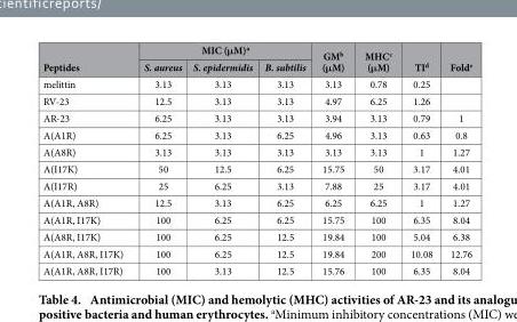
<table><thead><tr><td rowspan="2">Peptides</td><td colspan="3">MIC (μM)<sup>a</sup></td><td rowspan="2">GM<sup>b</sup> (μM)</td><td rowspan="2">MHC<sup>c</sup> (μM)</td><td rowspan="2">TI<sup>d</sup></td><td rowspan="2">Fold<sup>e</sup></td></tr><tr><td>S. aureus</td><td>S. epidermidis</td><td>B. subtilis</td></tr></thead><tbody><tr><td>melittin</td><td>3.13</td><td>3.13</td><td>3.13</td><td>3.13</td><td>0.78</td><td>0.25</td><td></td></tr><tr><td>RV-23</td><td>12.5</td><td>3.13</td><td>3.13</td><td>4.97</td><td>6.25</td><td>1.26</td><td></td></tr><tr><td>AR-23</td><td>6.25</td><td>3.13</td><td>3.13</td><td>3.94</td><td>3.13</td><td>0.79</td><td>1</td></tr><tr><td>A(A1R)</td><td>6.25</td><td>3.13</td><td>6.25</td><td>4.96</td><td>3.13</td><td>0.63</td><td>0.8</td></tr><tr><td>A(A8R)</td><td>3.13</td><td>3.13</td><td>3.13</td><td>3.13</td><td>3.13</td><td>1</td><td>1.27</td></tr><tr><td>A(I17K)</td><td>50</td><td>12.5</td><td>6.25</td><td>15.75</td><td>50</td><td>3.17</td><td>4.01</td></tr><tr><td>A(I17R)</td><td>25</td><td>6.25</td><td>3.13</td><td>7.88</td><td>25</td><td>3.17</td><td>4.01</td></tr><tr><td>A(A1R, A8R)</td><td>12.5</td><td>3.13</td><td>6.25</td><td>6.25</td><td>6.25</td><td>1</td><td>1.27</td></tr><tr><td>A(A1R, I17K)</td><td>100</td><td>6.25</td><td>6.25</td><td>15.75</td><td>100</td><td>6.35</td><td>8.04</td></tr><tr><td>A(A8R, I17K)</td><td>100</td><td>6.25</td><td>12.5</td><td>19.84</td><td>100</td><td>5.04</td><td>6.38</td></tr><tr><td>A(A1R, A8R, I17K)</td><td>100</td><td>6.25</td><td>12.5</td><td>19.84</td><td>200</td><td>10.08</td><td>12.76</td></tr><tr><td>A(A1R, A8R, I17R)</td><td>100</td><td>3.13</td><td>12.5</td><td>15.76</td><td>100</td><td>6.35</td><td>8.04</td></tr></tbody></table>